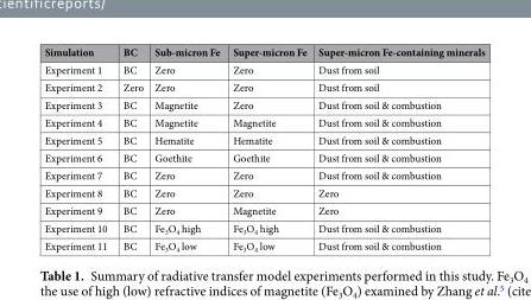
<table><thead><tr><td>Simulation</td><td>BC</td><td>Sub-micron Fe</td><td>Super-micron Fe</td><td>Super-micron Fe-containing minerals</td></tr></thead><tbody><tr><td>Experiment 1</td><td>BC</td><td>Zero</td><td>Zero</td><td>Dust from soil</td></tr><tr><td>Experiment 2</td><td>Zero</td><td>Zero</td><td>Zero</td><td>Dust from soil</td></tr><tr><td>Experiment 3</td><td>BC</td><td>Magnetite</td><td>Zero</td><td>Dust from soil &amp; combustion</td></tr><tr><td>Experiment 4</td><td>BC</td><td>Magnetite</td><td>Magnetite</td><td>Dust from soil &amp; combustion</td></tr><tr><td>Experiment 5</td><td>BC</td><td>Hematite</td><td>Hematite</td><td>Dust from soil &amp; combustion</td></tr><tr><td>Experiment 6</td><td>BC</td><td>Goethite</td><td>Goethite</td><td>Dust from soil &amp; combustion</td></tr><tr><td>Experiment 7</td><td>BC</td><td>Zero</td><td>Zero</td><td>Dust from soil &amp; combustion</td></tr><tr><td>Experiment 8</td><td>BC</td><td>Zero</td><td>Zero</td><td>Zero</td></tr><tr><td>Experiment 9</td><td>BC</td><td>Zero</td><td>Magnetite</td><td>Zero</td></tr><tr><td>Experiment 10</td><td>BC</td><td>Fe<sub>3</sub>O<sub>4</sub> high</td><td>Fe<sub>3</sub>O<sub>4</sub> high</td><td>Dust from soil &amp; combustion</td></tr><tr><td>Experiment 11</td><td>BC</td><td>Fe<sub>3</sub>O<sub>4</sub> low</td><td>Fe<sub>3</sub>O<sub>4</sub> low</td><td>Dust from soil &amp; combustion</td></tr></tbody></table>